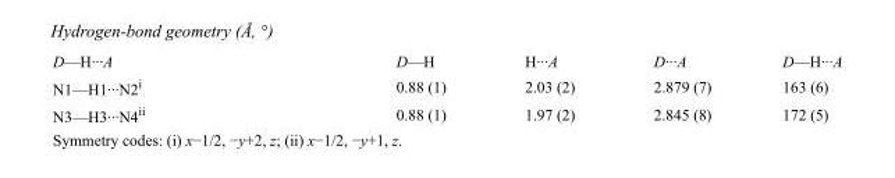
<table><tbody><tr><td>D—H···A</td><td>D—H</td><td>H···A</td><td>D···A</td><td>D—H···A</td></tr><tr><td>N1—H1···N2<sup>i</sup></td><td>0.88 (1)</td><td>2.03 (2)</td><td>2.879 (7)</td><td>163 (6)</td></tr><tr><td>N3—H3···N4<sup>ii</sup></td><td>0.88 (1)</td><td>1.97 (2)</td><td>2.845 (8)</td><td>172 (5)</td></tr></tbody></table>